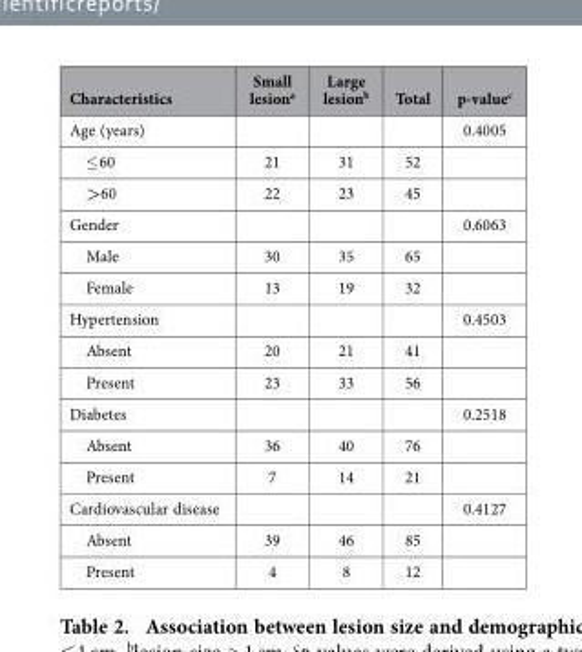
<table><thead><tr><td>Characteristics</td><td>Small lesion<sup>a</sup></td><td>Large lesion<sup>b</sup></td><td>Total</td><td>p-value<sup>c</sup></td></tr></thead><tbody><tr><td>Age (years)</td><td></td><td></td><td></td><td>0.4005</td></tr><tr><td>≤ 60</td><td>21</td><td>31</td><td>52</td><td></td></tr><tr><td>&gt;60</td><td>22</td><td>23</td><td>45</td><td></td></tr><tr><td>Gender</td><td></td><td></td><td></td><td>0.6063</td></tr><tr><td>Male</td><td>30</td><td>35</td><td>65</td><td></td></tr><tr><td>Female</td><td>13</td><td>19</td><td>32</td><td></td></tr><tr><td>Hypertension</td><td></td><td></td><td></td><td>0.4503</td></tr><tr><td>Absent</td><td>20</td><td>21</td><td>41</td><td></td></tr><tr><td>Present</td><td>23</td><td>33</td><td>56</td><td></td></tr><tr><td>Diabetes</td><td></td><td></td><td></td><td>0.2518</td></tr><tr><td>Absent</td><td>36</td><td>40</td><td>76</td><td></td></tr><tr><td>Present</td><td>7</td><td>14</td><td>21</td><td></td></tr><tr><td>Cardiovascular disease</td><td></td><td></td><td></td><td>0.4127</td></tr><tr><td>Absent</td><td>39</td><td>46</td><td>85</td><td></td></tr><tr><td>Present</td><td>4</td><td>8</td><td>12</td><td></td></tr></tbody></table>